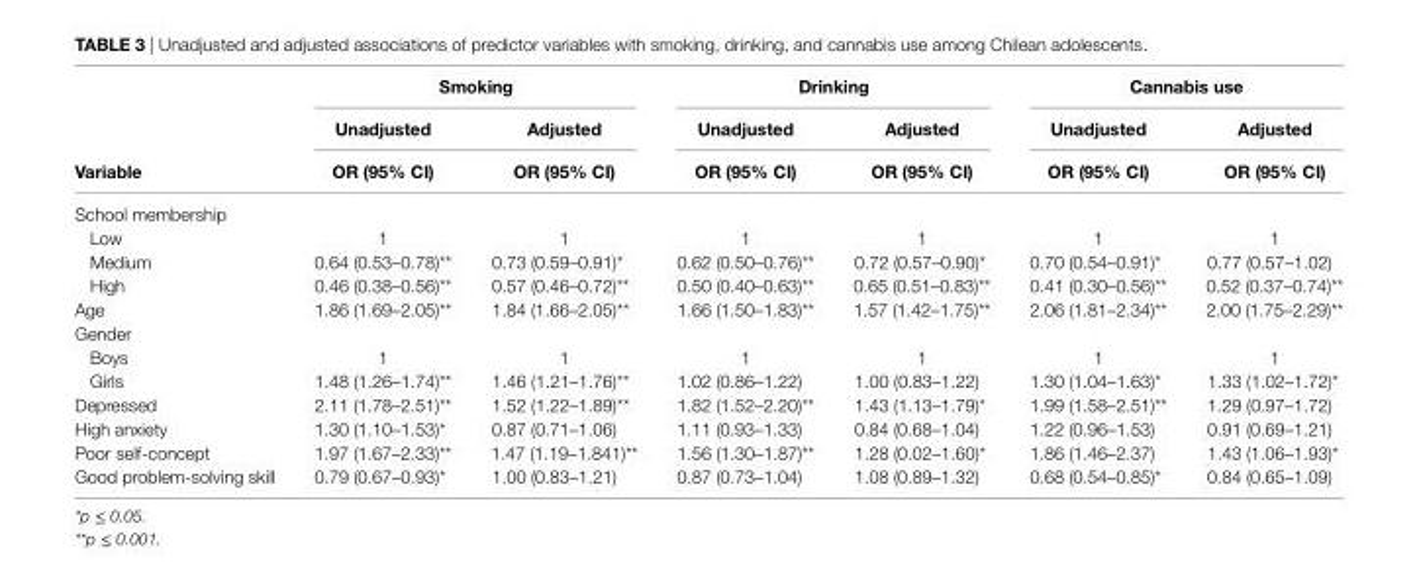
<table><thead><tr><td rowspan="3">Variable</td><td colspan="2">smoking</td><td colspan="2">Drinking</td><td colspan="2">cannabis use</td></tr><tr><td rowspan="2">Unadjusted Or (95% ci)</td><td rowspan="2">adjusted Or (95% ci)</td><td rowspan="2">Unadjusted Or (95% ci)</td><td rowspan="2">adjusted Or (95% ci)</td><td rowspan="2">Unadjusted Or (95% ci)</td><td rowspan="2">adjusted Or (95% ci)</td></tr><tr></tr></thead><tbody><tr><td colspan="7">School membership</td></tr><tr><td>Low</td><td>1</td><td>1</td><td>1</td><td>1</td><td>1</td><td>1</td></tr><tr><td>Medium</td><td>0.64 (0.53–0.78)**</td><td>0.73 (0.59–0.91)*</td><td>0.62 (0.50–0.76)**</td><td>0.72 (0.57–0.90)*</td><td>0.70 (0.54–0.91)*</td><td>0.77 (0.57–1.02)</td></tr><tr><td>High</td><td>0.46 (0.38–0.56)**</td><td>0.57 (0.46–0.72)**</td><td>0.50 (0.40–0.63)**</td><td>0.65 (0.51–0.83)**</td><td>0.41 (0.30–0.56)**</td><td>0.52 (0.37–0.74)**</td></tr><tr><td>Age</td><td>1.86 (1.69–2.05)**</td><td>1.84 (1.66–2.05)**</td><td>1.66 (1.50–1.83)**</td><td>1.57 (1.42–1.75)**</td><td>2.06 (1.81–2.34)**</td><td>2.00 (1.75–2.29)**</td></tr><tr><td colspan="7">Gender</td></tr><tr><td>Boys</td><td>1</td><td>1</td><td>1</td><td>1</td><td>1</td><td>1</td></tr><tr><td>Girls</td><td>1.48 (1.26–1.74)**</td><td>1.46 (1.21–1.76)**</td><td>1.02 (0.86–1.22)</td><td>1.00 (0.83–1.22)</td><td>1.30 (1.04–1.63)*</td><td>1.33 (1.02–1.72)*</td></tr><tr><td>Depressed</td><td>2.11 (1.78–2.51)**</td><td>1.52 (1.22–1.89)**</td><td>1.82 (1.52–2.20)**</td><td>1.43 (1.13–1.79)*</td><td>1.99 (1.58–2.51)**</td><td>1.29 (0.97–1.72)</td></tr><tr><td>High anxiety</td><td>1.30 (1.10–1.53)*</td><td>0.87 (0.71–1.06)</td><td>1.11 (0.93–1.33)</td><td>0.84 (0.68–1.04)</td><td>1.22 (0.96–1.53)</td><td>0.91 (0.69–1.21)</td></tr><tr><td>Poor self-concept</td><td>1.97 (1.67–2.33)**</td><td>1.47 (1.19–1.841)**</td><td>1.56 (1.30–1.87)**</td><td>1.28 (0.02–1.60)*</td><td>1.86 (1.46–2.37)</td><td>1.43 (1.06–1.93)*</td></tr><tr><td>Good problem-solving skill</td><td>0.79 (0.67–0.93)*</td><td>1.00 (0.83–1.21)</td><td>0.87 (0.73–1.04)</td><td>1.08 (0.89–1.32)</td><td>0.68 (0.54–0.85)*</td><td>0.84 (0.65–1.09)</td></tr></tbody></table>